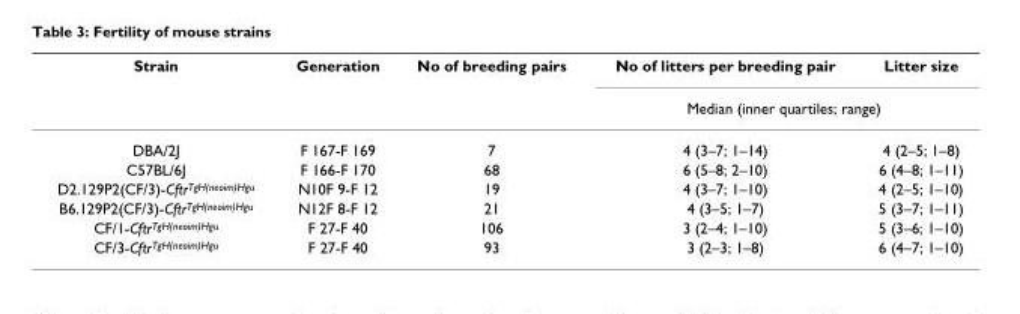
<table><thead><tr><td rowspan="2">Strain</td><td rowspan="2">Generation</td><td rowspan="2">No of breeding pairs</td><td>No of litters per breeding pair</td><td>Litter size</td></tr><tr><td colspan="2">Median (inner quartiles; range)</td></tr></thead><tbody><tr><td>DBA/2J</td><td>F 167-F 169</td><td>7</td><td>4 (3–7; 1–14)</td><td>4 (2–5; 1–8)</td></tr><tr><td>C57BL/6J</td><td>F 166-F 170</td><td>68</td><td>6 (5–8; 2–10)</td><td>6 (4–8; 1–11)</td></tr><tr><td>D2.129P2(CF/3)-Cftr<sup>TgH(neoim)Hgu</sup></td><td>N10F 9-F 12</td><td>19</td><td>4 (3–7; 1–10)</td><td>4 (2–5; 1–10)</td></tr><tr><td>B6.129P2(CF/3)-Cftr<sup>TgH(neoim)Hgu</sup></td><td>N12F 8-F 12</td><td>21</td><td>4 (3–5; 1–7)</td><td>5 (3–7; 1–11)</td></tr><tr><td>CF/1-Cftr<sup>TgH(neoim)Hgu</sup></td><td>F 27-F 40</td><td>106</td><td>3 (2–4; 1–10)</td><td>5 (3–6; 1–10)</td></tr><tr><td>CF/3-Cftr<sup>TgH(neoim)Hgu</sup></td><td>F 27-F 40</td><td>93</td><td>3 (2–3; 1–8)</td><td>6 (4–7; 1–10)</td></tr></tbody></table>